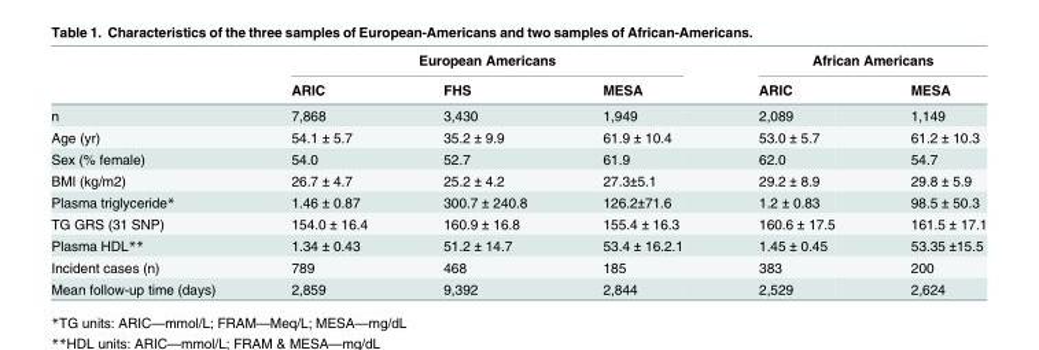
<table><thead><tr><td rowspan="2"></td><td colspan="3">European Americans</td><td colspan="2">African Americans</td></tr><tr><td>ARIC</td><td>FHS</td><td>MESA</td><td>ARIC</td><td>MESA</td></tr></thead><tbody><tr><td>n</td><td>7,868</td><td>3,430</td><td>1,949</td><td>2,089</td><td>1,149</td></tr><tr><td>Age (yr)</td><td>54.1 ± 5.7</td><td>35.2 ± 9.9</td><td>61.9 ± 10.4</td><td>53.0 ± 5.7</td><td>61.2 ± 10.3</td></tr><tr><td>Sex (% female)</td><td>54.0</td><td>52.7</td><td>61.9</td><td>62.0</td><td>54.7</td></tr><tr><td>BMI (kg/m2)</td><td>26.7 ± 4.7</td><td>25.2 ± 4.2</td><td>27.3±5.1</td><td>29.2 ± 8.9</td><td>29.8 ± 5.9</td></tr><tr><td>Plasma triglyceride*</td><td>1.46 ± 0.87</td><td>300.7 ± 240.8</td><td>126.2±71.6</td><td>1.2 ± 0.83</td><td>98.5 ± 50.3</td></tr><tr><td>TG GRS (31 SNP)</td><td>154.0 ± 16.4</td><td>160.9 ± 16.8</td><td>155.4 ± 16.3</td><td>160.6 ± 17.5</td><td>161.5 ± 17.1</td></tr><tr><td>Plasma HDL**</td><td>1.34 ± 0.43</td><td>51.2 ± 14.7</td><td>53.4 ± 16.2.1</td><td>1.45 ± 0.45</td><td>53.35 ±15.5</td></tr><tr><td>Incident cases (n)</td><td>789</td><td>468</td><td>185</td><td>383</td><td>200</td></tr><tr><td>Mean follow-up time (days)</td><td>2,859</td><td>9,392</td><td>2,844</td><td>2,529</td><td>2,624</td></tr></tbody></table>